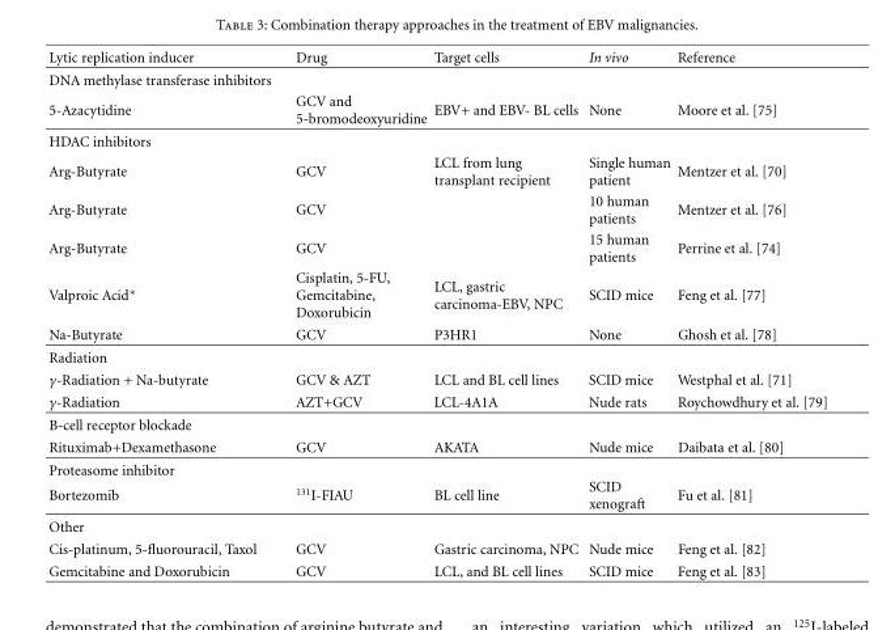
<table><thead><tr><td>Lytic replication inducer</td><td>Drug</td><td>Target cells</td><td>In vivo</td><td>Reference</td></tr></thead><tbody><tr><td colspan="5">DNA methylase transferase inhibitors</td></tr><tr><td>5-Azacytidine</td><td>GCV and 5-bromodeoxyuridine</td><td>EBV+ and EBV- BL cells</td><td>None</td><td>Moore et al. [75]</td></tr><tr><td colspan="5">HDAC inhibitors</td></tr><tr><td>Arg-Butyrate</td><td>GCV</td><td>LCL from lung transplant recipient</td><td>Single human patient</td><td>Mentzer et al. [70]</td></tr><tr><td>Arg-Butyrate</td><td>GCV</td><td></td><td>10 human patients</td><td>Mentzer et al. [76]</td></tr><tr><td>Arg-Butyrate</td><td>GCV</td><td></td><td>15 human patients</td><td>Perrine et al. [74]</td></tr><tr><td>Valproic Acid∗</td><td>Cisplatin, 5-FU, Gemcitabine, Doxorubicin</td><td>LCL, gastric carcinoma-EBV, NPC</td><td>SCID mice</td><td>Feng et al. [77]</td></tr><tr><td>Na-Butyrate</td><td>GCV</td><td>P3HR1</td><td>None</td><td>Ghosh et al. [78]</td></tr><tr><td colspan="5">Radiation</td></tr><tr><td>γ-Radiation + Na-butyrate</td><td>GCV &amp; AZT</td><td>LCL and BL cell lines</td><td>SCID mice</td><td>Westphal et al. [71]</td></tr><tr><td>γ-Radiation</td><td>AZT+GCV</td><td>LCL-4A1A</td><td>Nude rats</td><td>Roychowdhury et al. [79]</td></tr><tr><td colspan="5">B-cell receptor blockade</td></tr><tr><td>Rituximab+Dexamethasone</td><td>GCV</td><td>AKATA</td><td>Nude mice</td><td>Daibata et al. [80]</td></tr><tr><td colspan="5">Proteasome inhibitor</td></tr><tr><td>Bortezomib</td><td><sup>131</sup>I-FIAU</td><td>BL cell line</td><td>SCID xenograft</td><td>Fu et al. [81]</td></tr><tr><td colspan="5">Other</td></tr><tr><td>Cis-platinum, 5-fluorouracil, Taxol</td><td>GCV</td><td>Gastric carcinoma, NPC</td><td>Nude mice</td><td>Feng et al. [82]</td></tr><tr><td>Gemcitabine and Doxorubicin</td><td>GCV</td><td>LCL, and BL cell lines</td><td>SCID mice</td><td>Feng et al. [83]</td></tr></tbody></table>